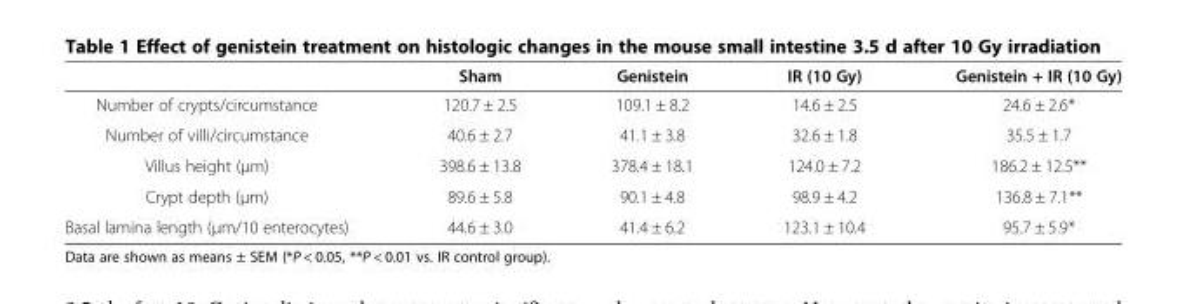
<table><thead><tr><td></td><td>Sham</td><td>Genistein</td><td>IR (10 Gy)</td><td>Genistein + IR (10 Gy)</td></tr></thead><tbody><tr><td>Number of crypts/circumstance</td><td>120.7 ± 2.5</td><td>109.1 ± 8.2</td><td>14.6 ± 2.5</td><td>24.6 ± 2.6*</td></tr><tr><td>Number of villi/circumstance</td><td>40.6 ± 2.7</td><td>41.1 ± 3.8</td><td>32.6 ± 1.8</td><td>35.5 ± 1.7</td></tr><tr><td>Villus height (μm)</td><td>398.6 ± 13.8</td><td>378.4 ± 18.1</td><td>124.0 ± 7.2</td><td>186.2 ± 12.5**</td></tr><tr><td>Crypt depth (μm)</td><td>89.6 ± 5.8</td><td>90.1 ± 4.8</td><td>98.9 ± 4.2</td><td>136.8 ± 7.1**</td></tr><tr><td>Basal lamina length (μm/10 enterocytes)</td><td>44.6 ± 3.0</td><td>41.4 ± 6.2</td><td>123.1 ± 10.4</td><td>95.7 ± 5.9*</td></tr></tbody></table>